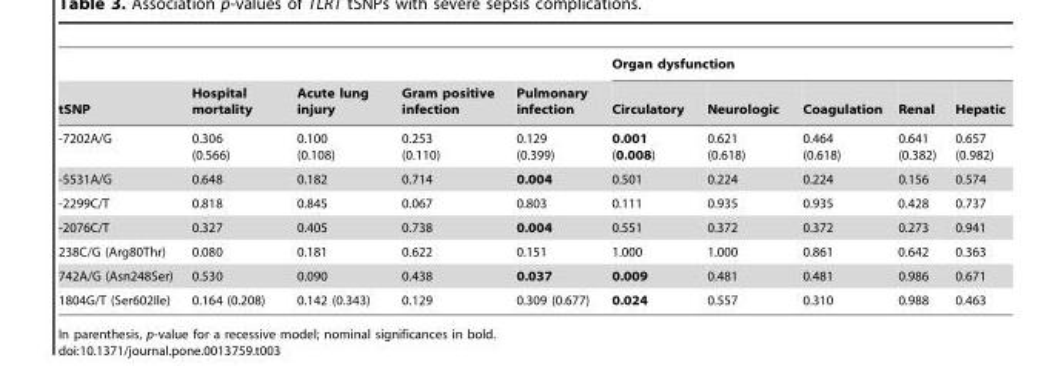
<table><thead><tr><td rowspan="2">tSNP</td><td rowspan="2">Hospital mortality</td><td rowspan="2">Acute lung injury</td><td rowspan="2">Gram positive infection</td><td rowspan="2">Pulmonary infection</td><td colspan="5">Organ dysfunction</td></tr><tr><td>Circulatory</td><td>Neurologic</td><td>Coagulation</td><td>Renal</td><td>Hepatic</td></tr></thead><tbody><tr><td>-7202A/G</td><td>0.306 (0.566)</td><td>0.100 (0.108)</td><td>0.253 (0.110)</td><td>0.129 (0.399)</td><td>0.001 (0.008)</td><td>0.621 (0.618)</td><td>0.464 (0.618)</td><td>0.641 (0.382)</td><td>0.657 (0.982)</td></tr><tr><td>-5531A/G</td><td>0.648</td><td>0.182</td><td>0.714</td><td>0.004</td><td>0.501</td><td>0.224</td><td>0.224</td><td>0.156</td><td>0.574</td></tr><tr><td>-2299C/T</td><td>0.818</td><td>0.845</td><td>0.067</td><td>0.803</td><td>0.111</td><td>0.935</td><td>0.935</td><td>0.428</td><td>0.737</td></tr><tr><td>-2076C/T</td><td>0.327</td><td>0.405</td><td>0.738</td><td>0.004</td><td>0.551</td><td>0.372</td><td>0.372</td><td>0.273</td><td>0.941</td></tr><tr><td>238C/G (Arg80Thr)</td><td>0.080</td><td>0.181</td><td>0.622</td><td>0.151</td><td>1.000</td><td>1.000</td><td>0.861</td><td>0.642</td><td>0.363</td></tr><tr><td>742A/G (Asn248Ser)</td><td>0.530</td><td>0.090</td><td>0.438</td><td>0.037</td><td>0.009</td><td>0.481</td><td>0.481</td><td>0.986</td><td>0.671</td></tr><tr><td>1804G/T (Ser602Ile)</td><td>0.164 (0.208)</td><td>0.142 (0.343)</td><td>0.129</td><td>0.309 (0.677)</td><td>0.024</td><td>0.557</td><td>0.310</td><td>0.988</td><td>0.463</td></tr></tbody></table>